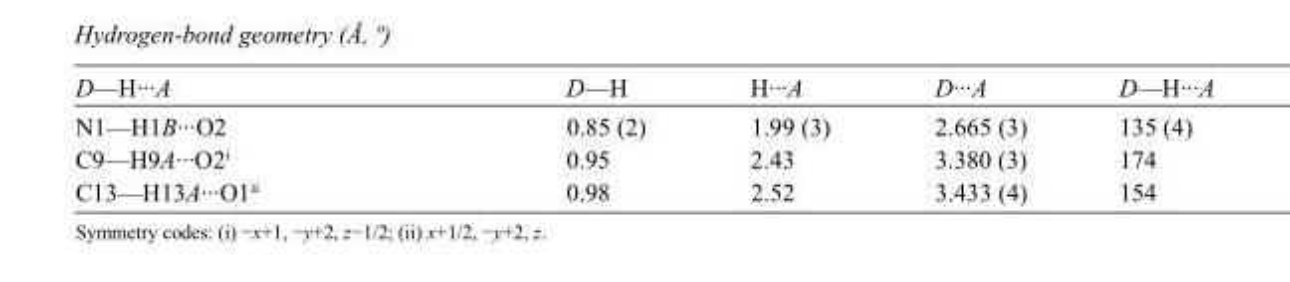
<table><tbody><tr><td>D—H···A</td><td>D—H</td><td>H···A</td><td>D···A</td><td>D—H···A</td></tr><tr><td>N1—H1B···O2</td><td>0.85 (2)</td><td>1.99 (3)</td><td>2.665 (3)</td><td>135 (4)</td></tr><tr><td>C9—H9A···O2<sup>i</sup></td><td>0.95</td><td>2.43</td><td>3.380 (3)</td><td>174</td></tr><tr><td>C13—H13A···O1<sup>ii</sup></td><td>0.98</td><td>2.52</td><td>3.433 (4)</td><td>154</td></tr></tbody></table>